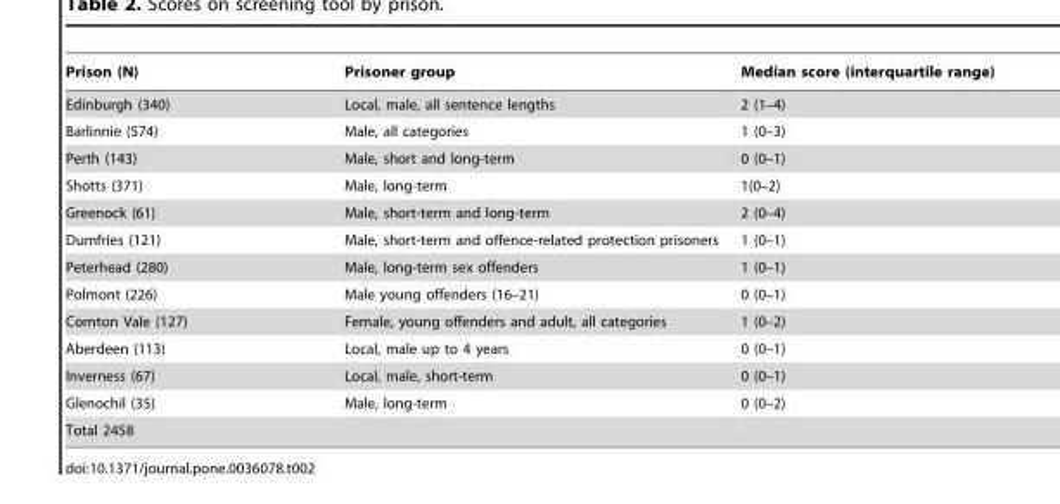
<table><thead><tr><td>Prison (N)</td><td>Prisoner group</td><td>Median score (interquartile range)</td></tr></thead><tbody><tr><td>Edinburgh (340)</td><td>Local, male, all sentence lengths</td><td>2 (1–4)</td></tr><tr><td>Barlinnie (574)</td><td>Male, all categories</td><td>1 (0–3)</td></tr><tr><td>Perth (143)</td><td>Male, short and long-term</td><td>0 (0–1)</td></tr><tr><td>Shotts (371)</td><td>Male, long-term</td><td>1(0–2)</td></tr><tr><td>Greenock (61)</td><td>Male, short-term and long-term</td><td>2 (0–4)</td></tr><tr><td>Dumfries (121)</td><td>Male, short-term and offence-related protection prisoners</td><td>1 (0–1)</td></tr><tr><td>Peterhead (280)</td><td>Male, long-term sex offenders</td><td>1 (0–1)</td></tr><tr><td>Polmont (226)</td><td>Male young offenders (16–21)</td><td>0 (0–1)</td></tr><tr><td>Cornton Vale (127)</td><td>Female, young offenders and adult, all categories</td><td>1 (0–2)</td></tr><tr><td>Aberdeen (113)</td><td>Local, male up to 4 years</td><td>0 (0–1)</td></tr><tr><td>Inverness (67)</td><td>Local, male, short-term</td><td>0 (0–1)</td></tr><tr><td>Glenochil (35)</td><td>Male, long-term</td><td>0 (0–2)</td></tr><tr><td>Total 2458</td><td></td><td></td></tr></tbody></table>